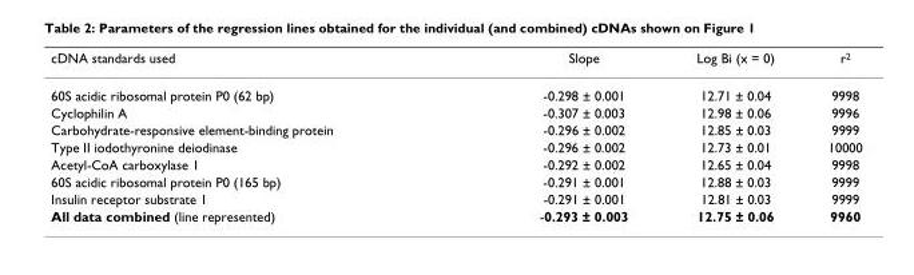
<table><thead><tr><td>cDNA standards used</td><td>Slope</td><td>Log Bi (x = 0)</td><td>r<sup>2</sup></td></tr></thead><tbody><tr><td>60S acidic ribosomal protein P0 (62 bp)</td><td>-0.298 ± 0.001</td><td>12.71 ± 0.04</td><td>9998</td></tr><tr><td>Cyclophilin A</td><td>-0.307 ± 0.003</td><td>12.98 ± 0.06</td><td>9996</td></tr><tr><td>Carbohydrate-responsive element-binding protein</td><td>-0.296 ± 0.002</td><td>12.85 ± 0.03</td><td>9999</td></tr><tr><td>Type II iodothyronine deiodinase</td><td>-0.296 ± 0.002</td><td>12.73 ± 0.01</td><td>10000</td></tr><tr><td>Acetyl-CoA carboxylase 1</td><td>-0.292 ± 0.002</td><td>12.65 ± 0.04</td><td>9998</td></tr><tr><td>60S acidic ribosomal protein P0 (165 bp)</td><td>-0.291 ± 0.001</td><td>12.88 ± 0.03</td><td>9999</td></tr><tr><td>Insulin receptor substrate 1</td><td>-0.291 ± 0.001</td><td>12.81 ± 0.03</td><td>9999</td></tr><tr><td>All data combined (line represented)</td><td>-0.293 ± 0.003</td><td>12.75 ± 0.06</td><td>9960</td></tr></tbody></table>